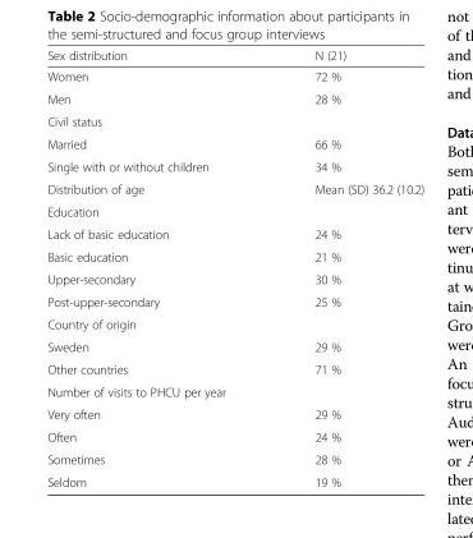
<table><thead><tr><td>Sex distribution</td><td>N (21)</td></tr></thead><tbody><tr><td>Women</td><td>72 %</td></tr><tr><td>Men</td><td>28 %</td></tr><tr><td colspan="2">Civil status</td></tr><tr><td>Married</td><td>66 %</td></tr><tr><td>Single with or without children</td><td>34 %</td></tr><tr><td>Distribution of age</td><td>Mean (SD) 36.2 (10.2)</td></tr><tr><td colspan="2">Education</td></tr><tr><td>Lack of basic education</td><td>24 %</td></tr><tr><td>Basic education</td><td>21 %</td></tr><tr><td>Upper-secondary</td><td>30 %</td></tr><tr><td>Post-upper-secondary</td><td>25 %</td></tr><tr><td colspan="2">Country of origin</td></tr><tr><td>Sweden</td><td>29 %</td></tr><tr><td>Other countries</td><td>71 %</td></tr><tr><td colspan="2">Number of visits to PHCU per year</td></tr><tr><td>Very often</td><td>29 %</td></tr><tr><td>Often</td><td>24 %</td></tr><tr><td>Sometimes</td><td>28 %</td></tr><tr><td>Seldom</td><td>19 %</td></tr></tbody></table>